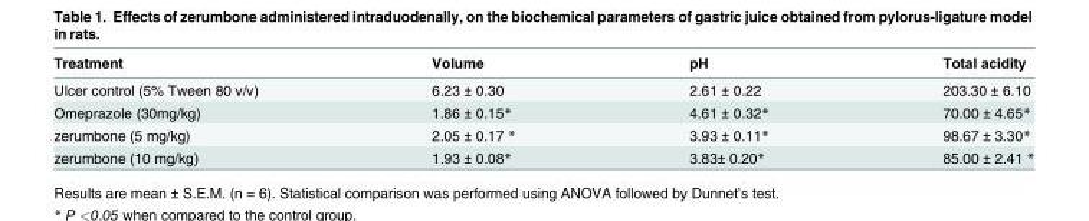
<table><thead><tr><td>Treatment</td><td>Volume</td><td>pH</td><td>Total acidity</td></tr></thead><tbody><tr><td>Ulcer control (5% Tween 80 v/v)</td><td>6.23 ± 0.30</td><td>2.61 ± 0.22</td><td>203.30 ± 6.10</td></tr><tr><td>Omeprazole (30mg/kg)</td><td>1.86 ± 0.15*</td><td>4.61 ± 0.32*</td><td>70.00 ± 4.65*</td></tr><tr><td>zerumbone (5 mg/kg)</td><td>2.05 ± 0.17 *</td><td>3.93 ± 0.11*</td><td>98.67 ± 3.30*</td></tr><tr><td>zerumbone (10 mg/kg)</td><td>1.93 ± 0.08*</td><td>3.83± 0.20*</td><td>85.00 ± 2.41 *</td></tr></tbody></table>